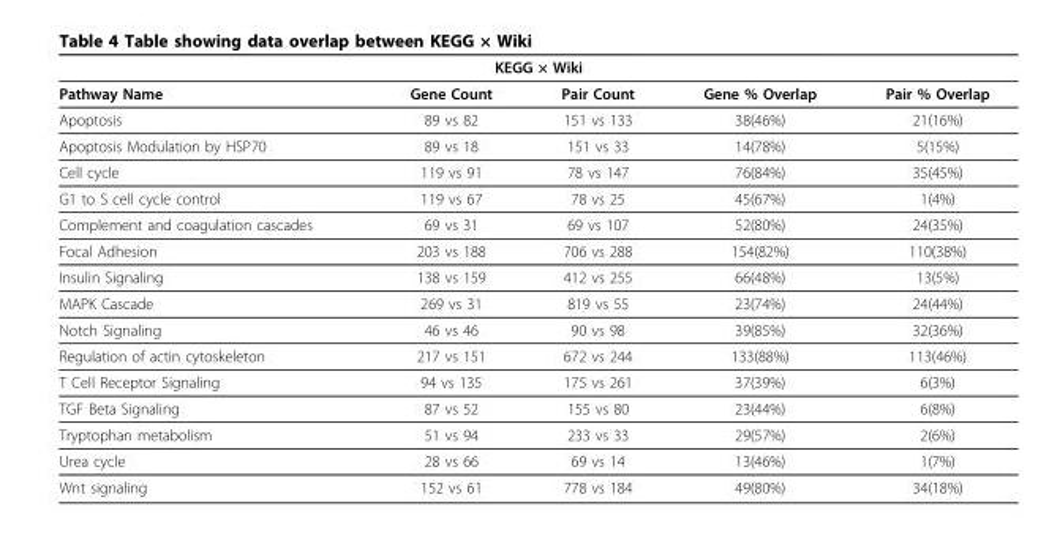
<table><thead><tr><td colspan="5">KEGG × Wiki</td></tr><tr><td>Pathway Name</td><td>Gene Count</td><td>Pair Count</td><td>Gene % Overlap</td><td>Pair % Overlap</td></tr></thead><tbody><tr><td>Apoptosis</td><td>89 vs 82</td><td>151 vs 133</td><td>38(46%)</td><td>21(16%)</td></tr><tr><td>Apoptosis Modulation by HSP70</td><td>89 vs 18</td><td>151 vs 33</td><td>14(78%)</td><td>5(15%)</td></tr><tr><td>Cell cycle</td><td>119 vs 91</td><td>78 vs 147</td><td>76(84%)</td><td>35(45%)</td></tr><tr><td>G1 to S cell cycle control</td><td>119 vs 67</td><td>78 vs 25</td><td>45(67%)</td><td>1(4%)</td></tr><tr><td>Complement and coagulation cascades</td><td>69 vs 31</td><td>69 vs 107</td><td>52(80%)</td><td>24(35%)</td></tr><tr><td>Focal Adhesion</td><td>203 vs 188</td><td>706 vs 288</td><td>154(82%)</td><td>110(38%)</td></tr><tr><td>Insulin Signaling</td><td>138 vs 159</td><td>412 vs 255</td><td>66(48%)</td><td>13(5%)</td></tr><tr><td>MAPK Cascade</td><td>269 vs 31</td><td>819 vs 55</td><td>23(74%)</td><td>24(44%)</td></tr><tr><td>Notch Signaling</td><td>46 vs 46</td><td>90 vs 98</td><td>39(85%)</td><td>32(36%)</td></tr><tr><td>Regulation of actin cytoskeleton</td><td>217 vs 151</td><td>672 vs 244</td><td>133(88%)</td><td>113(46%)</td></tr><tr><td>T Cell Receptor Signaling</td><td>94 vs 135</td><td>175 vs 261</td><td>37(39%)</td><td>6(3%)</td></tr><tr><td>TGF Beta Signaling</td><td>87 vs 52</td><td>155 vs 80</td><td>23(44%)</td><td>6(8%)</td></tr><tr><td>Tryptophan metabolism</td><td>51 vs 94</td><td>233 vs 33</td><td>29(57%)</td><td>2(6%)</td></tr><tr><td>Urea cycle</td><td>28 vs 66</td><td>69 vs 14</td><td>13(46%)</td><td>1(7%)</td></tr><tr><td>Wnt signaling</td><td>152 vs 61</td><td>778 vs 184</td><td>49(80%)</td><td>34(18%)</td></tr></tbody></table>